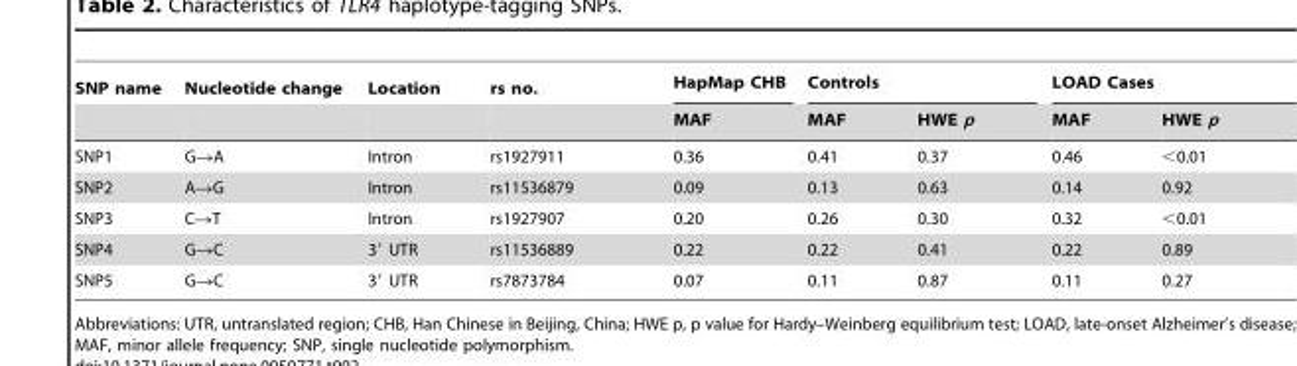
<table><thead><tr><td rowspan="2">SNP name</td><td rowspan="2">Nucleotide change</td><td rowspan="2">Location</td><td rowspan="2">rs no.</td><td rowspan="2">HapMap CHB MAF</td><td colspan="2">Controls</td><td colspan="2">LOAD Cases</td></tr><tr><td>MAF</td><td>HWE p</td><td>MAF</td><td>HWE p</td></tr></thead><tbody><tr><td>SNP1</td><td>G→A</td><td>Intron</td><td>rs1927911</td><td>0.36</td><td>0.41</td><td>0.37</td><td>0.46</td><td>&lt;0.01</td></tr><tr><td>SNP2</td><td>A→G</td><td>Intron</td><td>rs11536879</td><td>0.09</td><td>0.13</td><td>0.63</td><td>0.14</td><td>0.92</td></tr><tr><td>SNP3</td><td>C→T</td><td>Intron</td><td>rs1927907</td><td>0.20</td><td>0.26</td><td>0.30</td><td>0.32</td><td>&lt;0.01</td></tr><tr><td>SNP4</td><td>G→C</td><td>3′ UTR</td><td>rs11536889</td><td>0.22</td><td>0.22</td><td>0.41</td><td>0.22</td><td>0.89</td></tr><tr><td>SNP5</td><td>G→C</td><td>3′ UTR</td><td>rs7873784</td><td>0.07</td><td>0.11</td><td>0.87</td><td>0.11</td><td>0.27</td></tr></tbody></table>